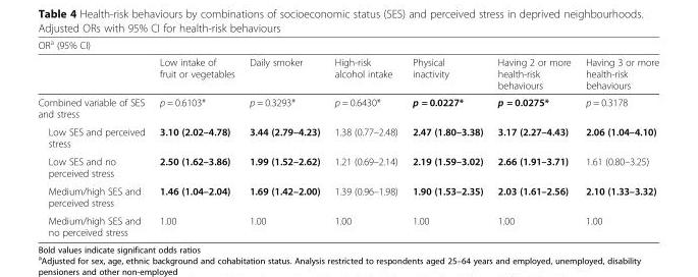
<table><thead><tr><td colspan="7">OR<sup>a</sup> (95% CI)</td></tr><tr><td></td><td>Low intake of fruit or vegetables</td><td>Daily smoker</td><td>High-risk alcohol intake</td><td>Physical inactivity</td><td>Having 2 or more health-risk behaviours</td><td>Having 3 or more health-risk behaviours</td></tr></thead><tbody><tr><td>Combined variable of SES and stress</td><td>p = 0.6103*</td><td>p = 0.3293*</td><td>p = 0.6430*</td><td>p = 0.0227*</td><td>p = 0.0275*</td><td>p = 0.3178</td></tr><tr><td>Low SES and perceived stress</td><td>3.10 (2.02–4.78)</td><td>3.44 (2.79–4.23)</td><td>1.38 (0.77–2.48)</td><td>2.47 (1.80–3.38)</td><td>3.17 (2.27–4.43)</td><td>2.06 (1.04–4.10)</td></tr><tr><td>Low SES and no perceived stress</td><td>2.50 (1.62–3.86)</td><td>1.99 (1.52–2.62)</td><td>1.21 (0.69–2.14)</td><td>2.19 (1.59–3.02)</td><td>2.66 (1.91–3.71)</td><td>1.61 (0.80–3.25)</td></tr><tr><td>Medium/high SES and perceived stress</td><td>1.46 (1.04–2.04)</td><td>1.69 (1.42–2.00)</td><td>1.39 (0.96–1.98)</td><td>1.90 (1.53–2.35)</td><td>2.03 (1.61–2.56)</td><td>2.10 (1.33–3.32)</td></tr><tr><td>Medium/high SES and no perceived stress</td><td>1.00</td><td>1.00</td><td>1.00</td><td>1.00</td><td>1.00</td><td>1.00</td></tr></tbody></table>